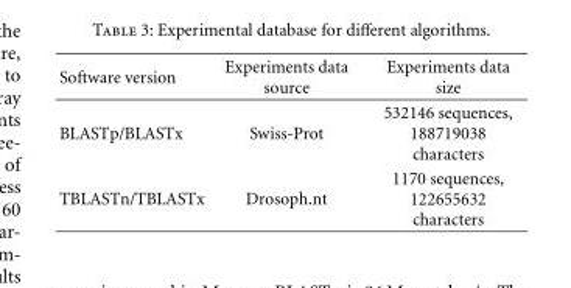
<table><thead><tr><td>Software version</td><td>Experiments data source</td><td>Experiments data size</td></tr></thead><tbody><tr><td>BLASTp/BLASTx</td><td>Swiss-Prot</td><td>532146 sequences, 188719038 characters</td></tr><tr><td>TBLASTn/TBLASTx</td><td>Drosoph.nt</td><td>1170 sequences, 122655632 characters</td></tr></tbody></table>